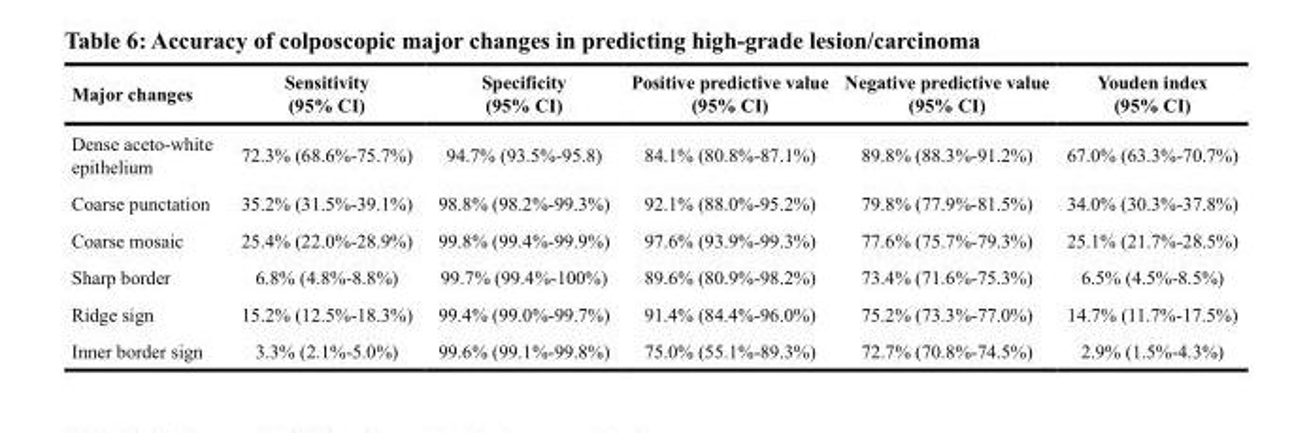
<table><thead><tr><td>Major changes</td><td>Sensitivity (95% CI)</td><td>Specificity (95% CI)</td><td>Positive predictive value (95% CI)</td><td>Negative predictive value (95% CI)</td><td>Youden index (95% CI)</td></tr></thead><tbody><tr><td>Dense aceto-white epithelium</td><td>72.3% (68.6%-75.7%)</td><td>94.7% (93.5%-95.8)</td><td>84.1% (80.8%-87.1%)</td><td>89.8% (88.3%-91.2%)</td><td>67.0% (63.3%-70.7%)</td></tr><tr><td>Coarse punctation</td><td>35.2% (31.5%-39.1%)</td><td>98.8% (98.2%-99.3%)</td><td>92.1% (88.0%-95.2%)</td><td>79.8% (77.9%-81.5%)</td><td>34.0% (30.3%-37.8%)</td></tr><tr><td>Coarse mosaic</td><td>25.4% (22.0%-28.9%)</td><td>99.8% (99.4%-99.9%)</td><td>97.6% (93.9%-99.3%)</td><td>77.6% (75.7%-79.3%)</td><td>25.1% (21.7%-28.5%)</td></tr><tr><td>Sharp border</td><td>6.8% (4.8%-8.8%)</td><td>99.7% (99.4%-100%)</td><td>89.6% (80.9%-98.2%)</td><td>73.4% (71.6%-75.3%)</td><td>6.5% (4.5%-8.5%)</td></tr><tr><td>Ridge sign</td><td>15.2% (12.5%-18.3%)</td><td>99.4% (99.0%-99.7%)</td><td>91.4% (84.4%-96.0%)</td><td>75.2% (73.3%-77.0%)</td><td>14.7% (11.7%-17.5%)</td></tr><tr><td>Inner border sign</td><td>3.3% (2.1%-5.0%)</td><td>99.6% (99.1%-99.8%)</td><td>75.0% (55.1%-89.3%)</td><td>72.7% (70.8%-74.5%)</td><td>2.9% (1.5%-4.3%)</td></tr></tbody></table>